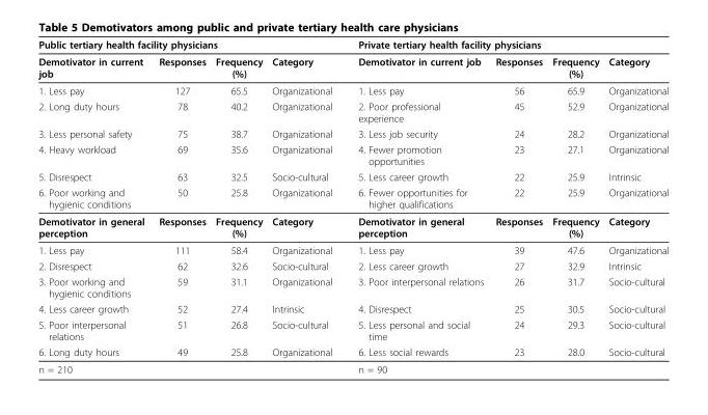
<table><thead><tr><td colspan="4">Public tertiary health facility physicians</td><td colspan="4">Private tertiary health facility physicians</td></tr><tr><td>Demotivator in current job</td><td>Responses</td><td>Frequency (%)</td><td>Category</td><td>Demotivator in current job</td><td>Responses</td><td>Frequency (%)</td><td>Category</td></tr></thead><tbody><tr><td>1. Less pay</td><td>127</td><td>65.5</td><td>Organizational</td><td>1. Less pay</td><td>56</td><td>65.9</td><td>Organizational</td></tr><tr><td>2. Long duty hours</td><td>78</td><td>40.2</td><td>Organizational</td><td>2. Poor professional experience</td><td>45</td><td>52.9</td><td>Organizational</td></tr><tr><td>3. Less personal safety</td><td>75</td><td>38.7</td><td>Organizational</td><td>3. Less job security</td><td>24</td><td>28.2</td><td>Organizational</td></tr><tr><td>4. Heavy workload</td><td>69</td><td>35.6</td><td>Organizational</td><td>4. Fewer promotion opportunities</td><td>23</td><td>27.1</td><td>Organizational</td></tr><tr><td>5. Disrespect</td><td>63</td><td>32.5</td><td>Socio-cultural</td><td>5. Less career growth</td><td>22</td><td>25.9</td><td>Intrinsic</td></tr><tr><td>6. Poor working and hygienic conditions</td><td>50</td><td>25.8</td><td>Organizational</td><td>6. Fewer opportunities for higher qualifications</td><td>22</td><td>25.9</td><td>Organizational</td></tr><tr><td>Demotivator in general perception</td><td>Responses</td><td>Frequency (%)</td><td>Category</td><td>Demotivator in general perception</td><td>Responses</td><td>Frequency (%)</td><td>Category</td></tr><tr><td>1. Less pay</td><td>111</td><td>58.4</td><td>Organizational</td><td>1. Less pay</td><td>39</td><td>47.6</td><td>Organizational</td></tr><tr><td>2. Disrespect</td><td>62</td><td>32.6</td><td>Socio-cultural</td><td>2. Less career growth</td><td>27</td><td>32.9</td><td>Intrinsic</td></tr><tr><td>3. Poor working and hygienic conditions</td><td>59</td><td>31.1</td><td>Organizational</td><td>3. Poor interpersonal relations</td><td>26</td><td>31.7</td><td>Socio-cultural</td></tr><tr><td>4. Less career growth</td><td>52</td><td>27.4</td><td>Intrinsic</td><td>4. Disrespect</td><td>25</td><td>30.5</td><td>Socio-cultural</td></tr><tr><td>5. Poor interpersonal relations</td><td>51</td><td>26.8</td><td>Socio-cultural</td><td>5. Less personal and social time</td><td>24</td><td>29.3</td><td>Socio-cultural</td></tr><tr><td>6. Long duty hours</td><td>49</td><td>25.8</td><td>Organizational</td><td>6. Less social rewards</td><td>23</td><td>28.0</td><td>Socio-cultural</td></tr><tr><td>n = 210</td><td></td><td></td><td></td><td>n = 90</td><td></td><td></td><td></td></tr></tbody></table>